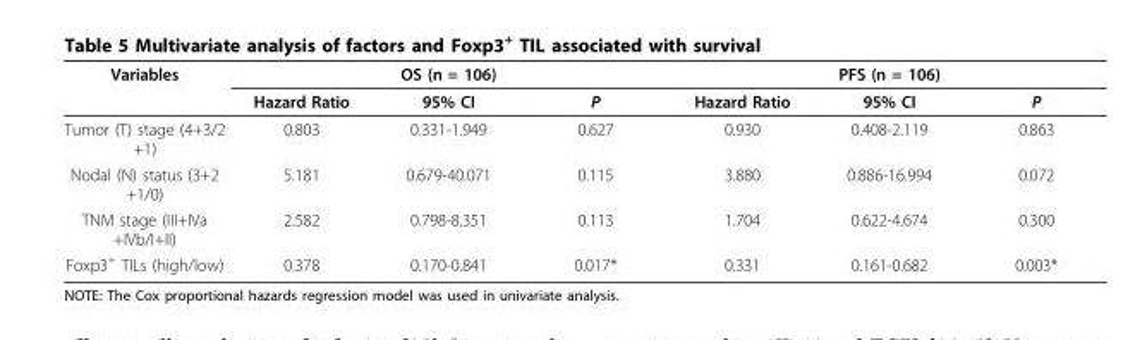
<table><thead><tr><td rowspan="2">Variables</td><td colspan="3">OS (n = 106)</td><td colspan="3">PFS (n = 106)</td></tr><tr><td>Hazard Ratio</td><td>95% CI</td><td>P</td><td>Hazard Ratio</td><td>95% CI</td><td>P</td></tr></thead><tbody><tr><td>Tumor (T) stage (4+3/2 +1)</td><td>0.803</td><td>0.331-1.949</td><td>0.627</td><td>0.930</td><td>0.408-2.119</td><td>0.863</td></tr><tr><td>Nodal (N) status (3+2 +1/0)</td><td>5.181</td><td>0.679-40.071</td><td>0.115</td><td>3.880</td><td>0.886-16.994</td><td>0.072</td></tr><tr><td>TNM stage (III+IVa +IVb/I+II)</td><td>2.582</td><td>0.798-8.351</td><td>0.113</td><td>1.704</td><td>0.622-4.674</td><td>0.300</td></tr><tr><td>Foxp3<sup>+</sup> TILs (high/low)</td><td>0.378</td><td>0.170-0.841</td><td>0.017*</td><td>0.331</td><td>0.161-0.682</td><td>0.003*</td></tr></tbody></table>